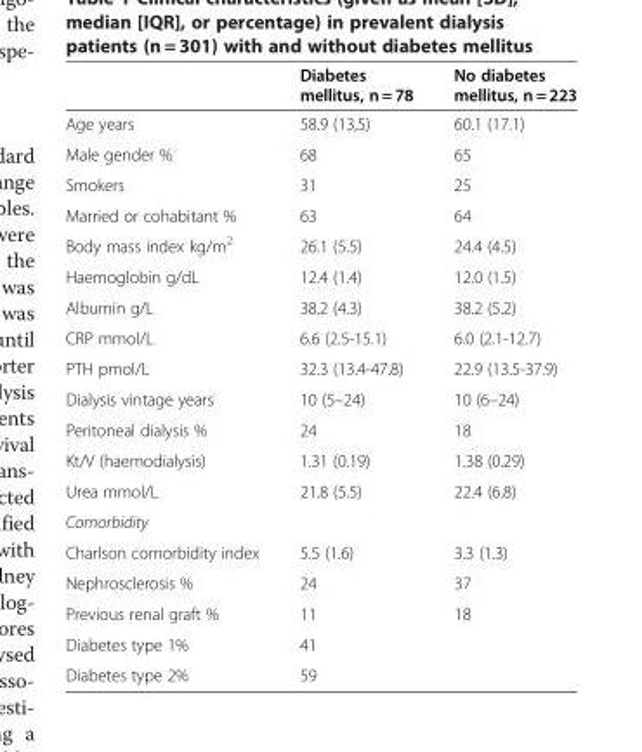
<table><thead><tr><td></td><td>Diabetes mellitus, n = 78</td><td>No diabetes mellitus, n = 223</td></tr></thead><tbody><tr><td>Age years</td><td>58.9 (13,5)</td><td>60.1 (17.1)</td></tr><tr><td>Male gender %</td><td>68</td><td>65</td></tr><tr><td>Smokers</td><td>31</td><td>25</td></tr><tr><td>Married or cohabitant %</td><td>63</td><td>64</td></tr><tr><td>Body mass index kg/m<sup>2</sup></td><td>26.1 (5.5)</td><td>24.4 (4.5)</td></tr><tr><td>Haemoglobin g/dL</td><td>12.4 (1.4)</td><td>12.0 (1.5)</td></tr><tr><td>Albumin g/L</td><td>38.2 (4.3)</td><td>38.2 (5.2)</td></tr><tr><td>CRP mmol/L</td><td>6.6 (2.5-15.1)</td><td>6.0 (2.1-12.7)</td></tr><tr><td>PTH pmol/L</td><td>32.3 (13.4-47.8)</td><td>22.9 (13.5-37.9)</td></tr><tr><td>Dialysis vintage years</td><td>10 (5–24)</td><td>10 (6–24)</td></tr><tr><td>Peritoneal dialysis %</td><td>24</td><td>18</td></tr><tr><td>Kt/V (haemodialysis)</td><td>1.31 (0.19)</td><td>1.38 (0.29)</td></tr><tr><td>Urea mmol/L</td><td>21.8 (5.5)</td><td>22.4 (6.8)</td></tr><tr><td colspan="3">Comorbidity</td></tr><tr><td>Charlson comorbidity index</td><td>5.5 (1.6)</td><td>3.3 (1.3)</td></tr><tr><td>Nephrosclerosis %</td><td>24</td><td>37</td></tr><tr><td>Previous renal graft %</td><td>11</td><td>18</td></tr><tr><td>Diabetes type 1%</td><td>41</td><td></td></tr><tr><td>Diabetes type 2%</td><td>59</td><td></td></tr></tbody></table>